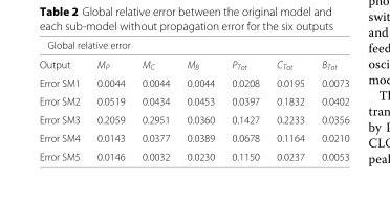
<table><thead><tr><td colspan="7">Global relative error</td></tr><tr><td>Output</td><td>M<sub>P</sub></td><td>M<sub>C</sub></td><td>M<sub>B</sub></td><td>P<sub>Tot</sub></td><td>C<sub>Tot</sub></td><td>B<sub>Tot</sub></td></tr></thead><tbody><tr><td>Error SM1</td><td>0.0044</td><td>0.0044</td><td>0.0044</td><td>0.0208</td><td>0.0195</td><td>0.0073</td></tr><tr><td>Error SM2</td><td>0.0519</td><td>0.0434</td><td>0.0453</td><td>0.0397</td><td>0.1832</td><td>0.0402</td></tr><tr><td>Error SM3</td><td>0.2059</td><td>0.2951</td><td>0.0360</td><td>0.1427</td><td>0.2233</td><td>0.0356</td></tr><tr><td>Error SM4</td><td>0.0143</td><td>0.0377</td><td>0.0389</td><td>0.0678</td><td>0.1164</td><td>0.0210</td></tr><tr><td>Error SM5</td><td>0.0146</td><td>0.0032</td><td>0.0230</td><td>0.1150</td><td>0.0237</td><td>0.0053</td></tr></tbody></table>